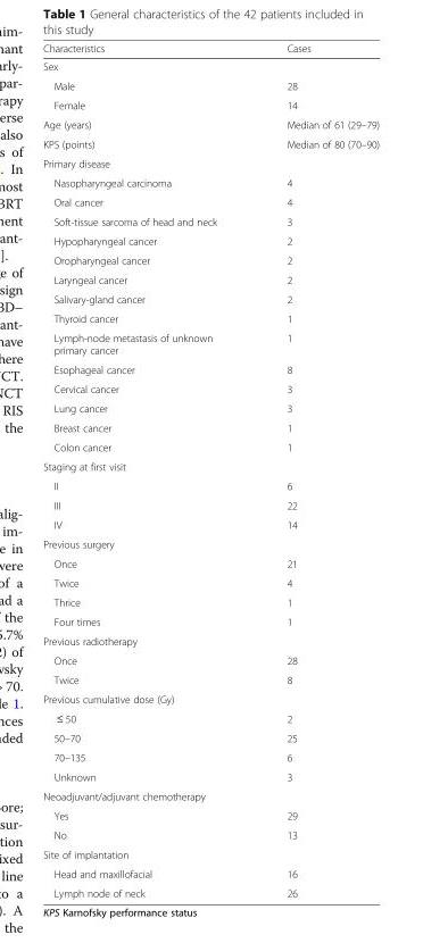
<table><thead><tr><td>Characteristics</td><td>Cases</td></tr></thead><tbody><tr><td colspan="2">Sex</td></tr><tr><td>Male</td><td>28</td></tr><tr><td>Female</td><td>14</td></tr><tr><td>Age (years)</td><td>Median of 61 (29–79)</td></tr><tr><td>KPS (points)</td><td>Median of 80 (70–90)</td></tr><tr><td colspan="2">Primary disease</td></tr><tr><td>Nasopharyngeal carcinoma</td><td>4</td></tr><tr><td>Oral cancer</td><td>4</td></tr><tr><td>Soft-tissue sarcoma of head and neck</td><td>3</td></tr><tr><td>Hypopharyngeal cancer</td><td>2</td></tr><tr><td>Oropharyngeal cancer</td><td>2</td></tr><tr><td>Laryngeal cancer</td><td>2</td></tr><tr><td>Salivary-gland cancer</td><td>2</td></tr><tr><td>Thyroid cancer</td><td>1</td></tr><tr><td>Lymph-node metastasis of unknown primary cancer</td><td>1</td></tr><tr><td>Esophageal cancer</td><td>8</td></tr><tr><td>Cervical cancer</td><td>3</td></tr><tr><td>Lung cancer</td><td>3</td></tr><tr><td>Breast cancer</td><td>1</td></tr><tr><td>Colon cancer</td><td>1</td></tr><tr><td colspan="2">Staging at first visit</td></tr><tr><td>II</td><td>6</td></tr><tr><td>III</td><td>22</td></tr><tr><td>IV</td><td>14</td></tr><tr><td colspan="2">Previous surgery</td></tr><tr><td>Once</td><td>21</td></tr><tr><td>Twice</td><td>4</td></tr><tr><td>Thrice</td><td>1</td></tr><tr><td>Four times</td><td>1</td></tr><tr><td colspan="2">Previous radiotherapy</td></tr><tr><td>Once</td><td>28</td></tr><tr><td>Twice</td><td>8</td></tr><tr><td colspan="2">Previous cumulative dose (Gy)</td></tr><tr><td>≤ 50</td><td>2</td></tr><tr><td>50–70</td><td>25</td></tr><tr><td>70–135</td><td>6</td></tr><tr><td>Unknown</td><td>3</td></tr><tr><td colspan="2">Neoadjuvant/adjuvant chemotherapy</td></tr><tr><td>Yes</td><td>29</td></tr><tr><td>No</td><td>13</td></tr><tr><td colspan="2">Site of implantation</td></tr><tr><td>Head and maxillofacial</td><td>16</td></tr><tr><td>Lymph node of neck</td><td>26</td></tr></tbody></table>